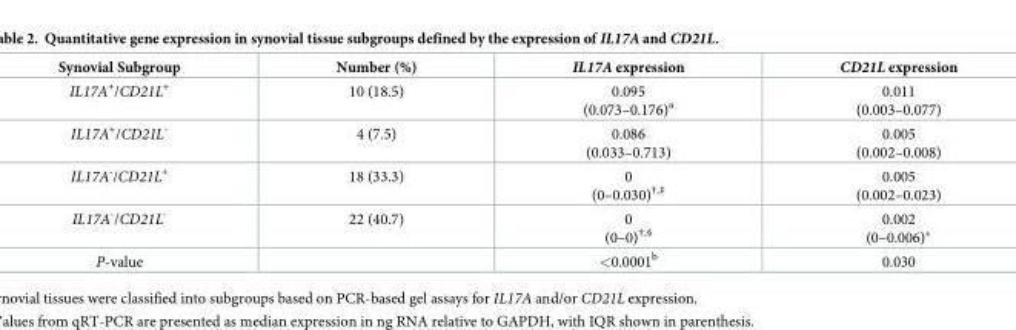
<table><thead><tr><td>Synovial Subgroup</td><td>Number (%)</td><td>IL17A expression</td><td>CD21L expression</td></tr></thead><tbody><tr><td>IL17A<sup>+</sup>/CD21L<sup>+</sup></td><td>10 (18.5)</td><td>0.095 (0.073–0.176)<sup>a</sup></td><td>0.011 (0.003–0.077)</td></tr><tr><td>IL17A<sup>+</sup>/CD21L<sup>-</sup></td><td>4 (7.5)</td><td>0.086 (0.033–0.713)</td><td>0.005 (0.002–0.008)</td></tr><tr><td>IL17A<sup>-</sup>/CD21L<sup>+</sup></td><td>18 (33.3)</td><td>0 (0–0.030)<sup>†,‡</sup></td><td>0.005 (0.002–0.023)</td></tr><tr><td>IL17A<sup>-</sup>/CD21L<sup>-</sup></td><td>22 (40.7)</td><td>0 (0–0)<sup>†,§</sup></td><td>0.002 (0–0.006)*</td></tr><tr><td>P-value</td><td></td><td>&lt;0.0001<sup>b</sup></td><td>0.030</td></tr></tbody></table>